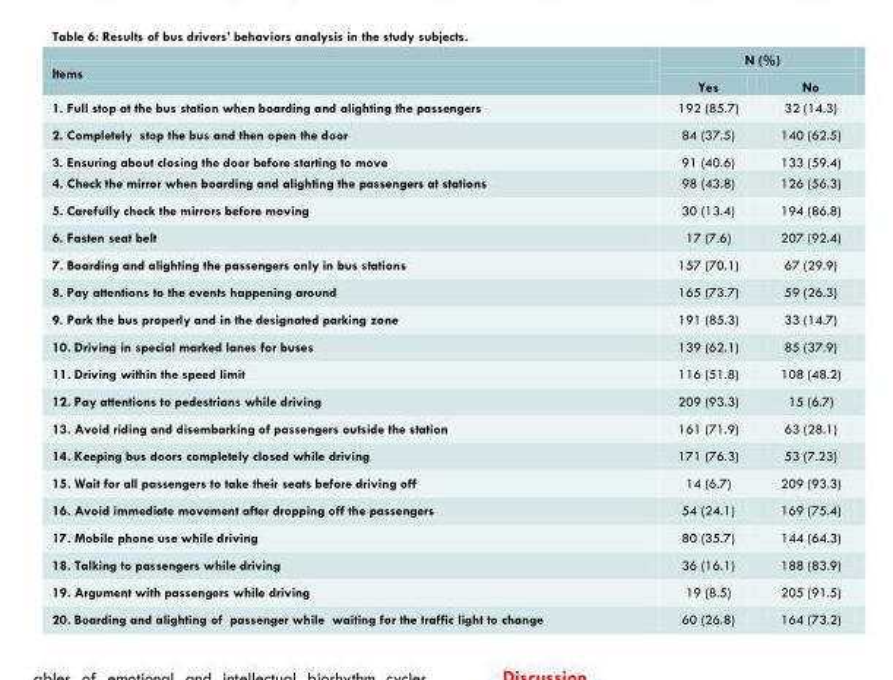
<table><thead><tr><td rowspan="2">Items</td><td colspan="2">N (%)</td></tr><tr><td>Yes</td><td>No</td></tr></thead><tbody><tr><td>1. Full stop at the bus station when boarding and alighting the passengers</td><td>192 (85.7)</td><td>32 (14.3)</td></tr><tr><td>2. Completely stop the bus and then open the door</td><td>84 (37.5)</td><td>140 (62.5)</td></tr><tr><td>3. Ensuring about closing the door before starting to move</td><td>91 (40.6)</td><td>133 (59.4)</td></tr><tr><td>4. Check the mirror when boarding and alighting the passengers at stations</td><td>98 (43.8)</td><td>126 (56.3)</td></tr><tr><td>5. Carefully check the mirrors before moving</td><td>30 (13.4)</td><td>194 (86.8)</td></tr><tr><td>6. Fasten seat belt</td><td>17 (7.6)</td><td>207 (92.4)</td></tr><tr><td>7. Boarding and alighting the passengers only in bus stations</td><td>157 (70.1)</td><td>67 (29.9)</td></tr><tr><td>8. Pay attentions to the events happening around</td><td>165 (73.7)</td><td>59 (26.3)</td></tr><tr><td>9. Park the bus properly and in the designated parking zone</td><td>191 (85.3)</td><td>33 (14.7)</td></tr><tr><td>10. Driving in special marked lanes for buses</td><td>139 (62.1)</td><td>85 (37.9)</td></tr><tr><td>11. Driving within the speed limit</td><td>116 (51.8)</td><td>108 (48.2)</td></tr><tr><td>12. Pay attentions to pedestrians while driving</td><td>209 (93.3)</td><td>15 (6.7)</td></tr><tr><td>13. Avoid riding and disembarking of passengers outside the station</td><td>161 (71.9)</td><td>63 (28.1)</td></tr><tr><td>14. Keeping bus doors completely closed while driving</td><td>171 (76.3)</td><td>53 (7.23)</td></tr><tr><td>15. Wait for all passengers to take their seats before driving off</td><td>14 (6.7)</td><td>209 (93.3)</td></tr><tr><td>16. Avoid immediate movement after dropping off the passengers</td><td>54 (24.1)</td><td>169 (75.4)</td></tr><tr><td>17. Mobile phone use while driving</td><td>80 (35.7)</td><td>144 (64.3)</td></tr><tr><td>18. Talking to passengers while driving</td><td>36 (16.1)</td><td>188 (83.9)</td></tr><tr><td>19. Argument with passengers while driving</td><td>19 (8.5)</td><td>205 (91.5)</td></tr><tr><td>20. Boarding and alighting of passenger while waiting for the traffic light to change</td><td>60 (26.8)</td><td>164 (73.2)</td></tr></tbody></table>